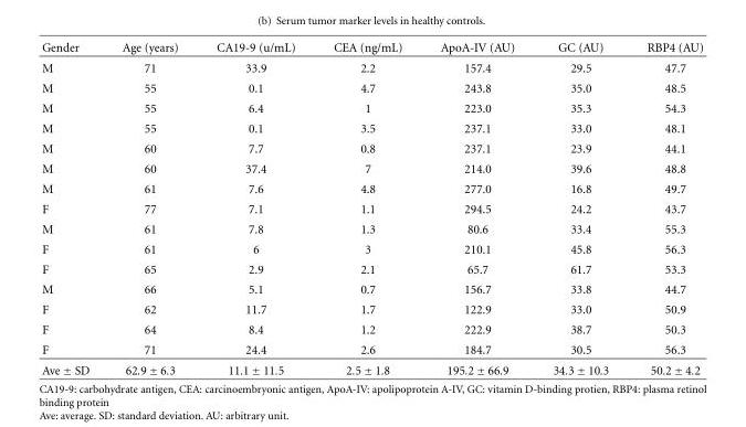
<table><thead><tr><td>Gender</td><td>Age (years)</td><td>CA19-9 (u/mL)</td><td>CEA (ng/mL)</td><td>ApoA-IV (AU)</td><td>GC (AU)</td><td>RBP4 (AU)</td></tr></thead><tbody><tr><td>M</td><td>71</td><td>33.9</td><td>2.2</td><td>157.4</td><td>29.5</td><td>47.7</td></tr><tr><td>M</td><td>55</td><td>0.1</td><td>4.7</td><td>243.8</td><td>35.0</td><td>48.5</td></tr><tr><td>M</td><td>55</td><td>6.4</td><td>1</td><td>223.0</td><td>35.3</td><td>54.3</td></tr><tr><td>M</td><td>55</td><td>0.1</td><td>3.5</td><td>237.1</td><td>33.0</td><td>48.1</td></tr><tr><td>M</td><td>60</td><td>7.7</td><td>0.8</td><td>237.1</td><td>23.9</td><td>44.1</td></tr><tr><td>M</td><td>60</td><td>37.4</td><td>7</td><td>214.0</td><td>39.6</td><td>48.8</td></tr><tr><td>M</td><td>61</td><td>7.6</td><td>4.8</td><td>277.0</td><td>16.8</td><td>49.7</td></tr><tr><td>F</td><td>77</td><td>7.1</td><td>1.1</td><td>294.5</td><td>24.2</td><td>43.7</td></tr><tr><td>M</td><td>61</td><td>7.8</td><td>1.3</td><td>80.6</td><td>33.4</td><td>55.3</td></tr><tr><td>F</td><td>61</td><td>6</td><td>3</td><td>210.1</td><td>45.8</td><td>56.3</td></tr><tr><td>F</td><td>65</td><td>2.9</td><td>2.1</td><td>65.7</td><td>61.7</td><td>53.3</td></tr><tr><td>M</td><td>66</td><td>5.1</td><td>0.7</td><td>156.7</td><td>33.8</td><td>44.7</td></tr><tr><td>F</td><td>62</td><td>11.7</td><td>1.7</td><td>122.9</td><td>33.0</td><td>50.9</td></tr><tr><td>F</td><td>64</td><td>8.4</td><td>1.2</td><td>222.9</td><td>38.7</td><td>50.3</td></tr><tr><td>F</td><td>71</td><td>24.4</td><td>2.6</td><td>184.7</td><td>30.5</td><td>56.3</td></tr><tr><td>Ave ± SD</td><td>62.9 ± 6.3</td><td>11.1 ± 11.5</td><td>2.5 ± 1.8</td><td>195.2 ± 66.9</td><td>34.3 ± 10.3</td><td>50.2 ± 4.2</td></tr></tbody></table>